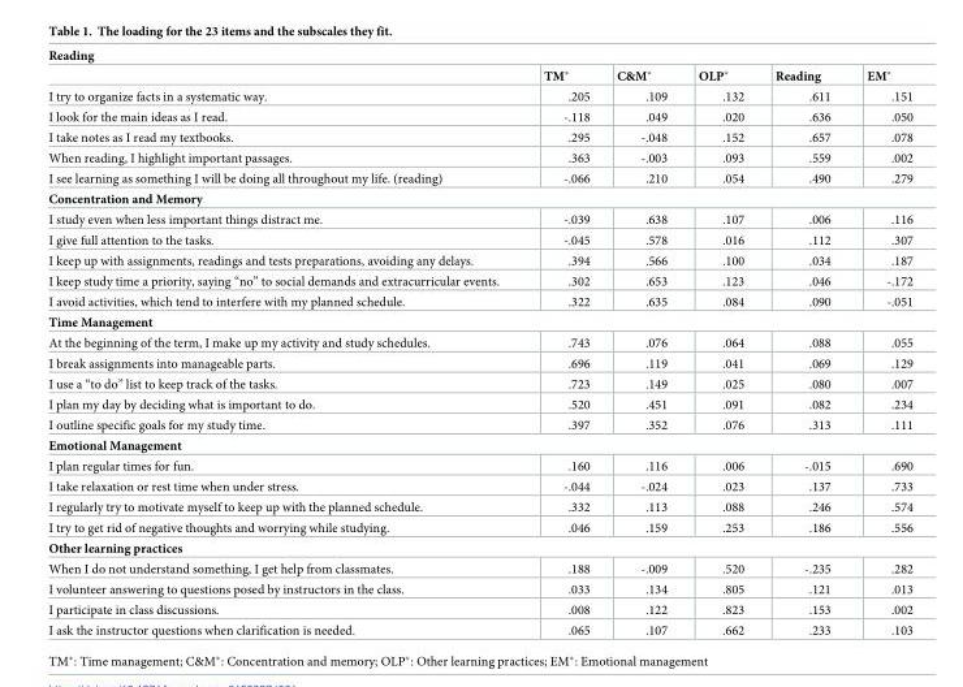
<table><thead><tr><td colspan="6">Reading</td></tr><tr><td></td><td>TM*</td><td>C&amp;M*</td><td>OLP*</td><td>Reading</td><td>EM*</td></tr></thead><tbody><tr><td>I try to organize facts in a systematic way.</td><td>.205</td><td>.109</td><td>.132</td><td>.611</td><td>.151</td></tr><tr><td>I look for the main ideas as I read.</td><td>-.118</td><td>.049</td><td>.020</td><td>.636</td><td>.050</td></tr><tr><td>I take notes as I read my textbooks.</td><td>.295</td><td>-.048</td><td>.152</td><td>.657</td><td>.078</td></tr><tr><td>When reading, I highlight important passages.</td><td>.363</td><td>-.003</td><td>.093</td><td>.559</td><td>.002</td></tr><tr><td>I see learning as something I will be doing all throughout my life. (reading)</td><td>-.066</td><td>.210</td><td>.054</td><td>.490</td><td>.279</td></tr><tr><td colspan="6">Concentration and Memory</td></tr><tr><td>I study even when less important things distract me.</td><td>-.039</td><td>.638</td><td>.107</td><td>.006</td><td>.116</td></tr><tr><td>I give full attention to the tasks.</td><td>-.045</td><td>.578</td><td>.016</td><td>.112</td><td>.307</td></tr><tr><td>I keep up with assignments, readings and tests preparations, avoiding any delays.</td><td>.394</td><td>.566</td><td>.100</td><td>.034</td><td>.187</td></tr><tr><td>I keep study time a priority, saying “no” to social demands and extracurricular events.</td><td>.302</td><td>.653</td><td>.123</td><td>.046</td><td>-.172</td></tr><tr><td>I avoid activities, which tend to interfere with my planned schedule.</td><td>.322</td><td>.635</td><td>.084</td><td>.090</td><td>-.051</td></tr><tr><td colspan="6">Time Management</td></tr><tr><td>At the beginning of the term, I make up my activity and study schedules.</td><td>.743</td><td>.076</td><td>.064</td><td>.088</td><td>.055</td></tr><tr><td>I break assignments into manageable parts.</td><td>.696</td><td>.119</td><td>.041</td><td>.069</td><td>.129</td></tr><tr><td>I use a “to do” list to keep track of the tasks.</td><td>.723</td><td>.149</td><td>.025</td><td>.080</td><td>.007</td></tr><tr><td>I plan my day by deciding what is important to do.</td><td>.520</td><td>.451</td><td>.091</td><td>.082</td><td>.234</td></tr><tr><td>I outline specific goals for my study time.</td><td>.397</td><td>.352</td><td>.076</td><td>.313</td><td>.111</td></tr><tr><td colspan="6">Emotional Management</td></tr><tr><td>I plan regular times for fun.</td><td>.160</td><td>.116</td><td>.006</td><td>-.015</td><td>.690</td></tr><tr><td>I take relaxation or rest time when under stress.</td><td>-.044</td><td>-.024</td><td>.023</td><td>.137</td><td>.733</td></tr><tr><td>I regularly try to motivate myself to keep up with the planned schedule.</td><td>.332</td><td>.113</td><td>.088</td><td>.246</td><td>.574</td></tr><tr><td>I try to get rid of negative thoughts and worrying while studying.</td><td>.046</td><td>.159</td><td>.253</td><td>.186</td><td>.556</td></tr><tr><td colspan="6">Other learning practices</td></tr><tr><td>When I do not understand something, I get help from classmates.</td><td>.188</td><td>-.009</td><td>.520</td><td>-.235</td><td>.282</td></tr><tr><td>I volunteer answering to questions posed by instructors in the class.</td><td>.033</td><td>.134</td><td>.805</td><td>.121</td><td>.013</td></tr><tr><td>I participate in class discussions.</td><td>.008</td><td>.122</td><td>.823</td><td>.153</td><td>.002</td></tr><tr><td>I ask the instructor questions when clarification is needed.</td><td>.065</td><td>.107</td><td>.662</td><td>.233</td><td>.103</td></tr></tbody></table>